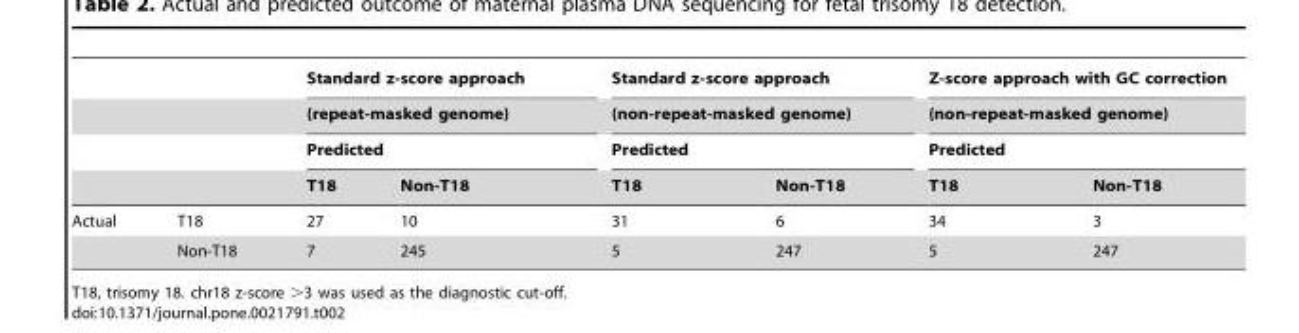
<table><thead><tr><td rowspan="4"></td><td rowspan="4"></td><td rowspan="3" colspan="2">Standard z-score approach (repeat-masked genome) Predicted</td><td rowspan="3" colspan="2">Standard z-score approach (non-repeat-masked genome) Predicted</td><td rowspan="3" colspan="2">Z-score approach with GC correction (non-repeat-masked genome) Predicted</td></tr><tr></tr><tr></tr><tr><td>T18</td><td>Non-T18</td><td>T18</td><td>Non-T18</td><td>T18</td><td>Non-T18</td></tr></thead><tbody><tr><td rowspan="2">Actual</td><td>T18</td><td>27</td><td>10</td><td>31</td><td>6</td><td>34</td><td>3</td></tr><tr><td>Non-T18</td><td>7</td><td>245</td><td>5</td><td>247</td><td>5</td><td>247</td></tr></tbody></table>